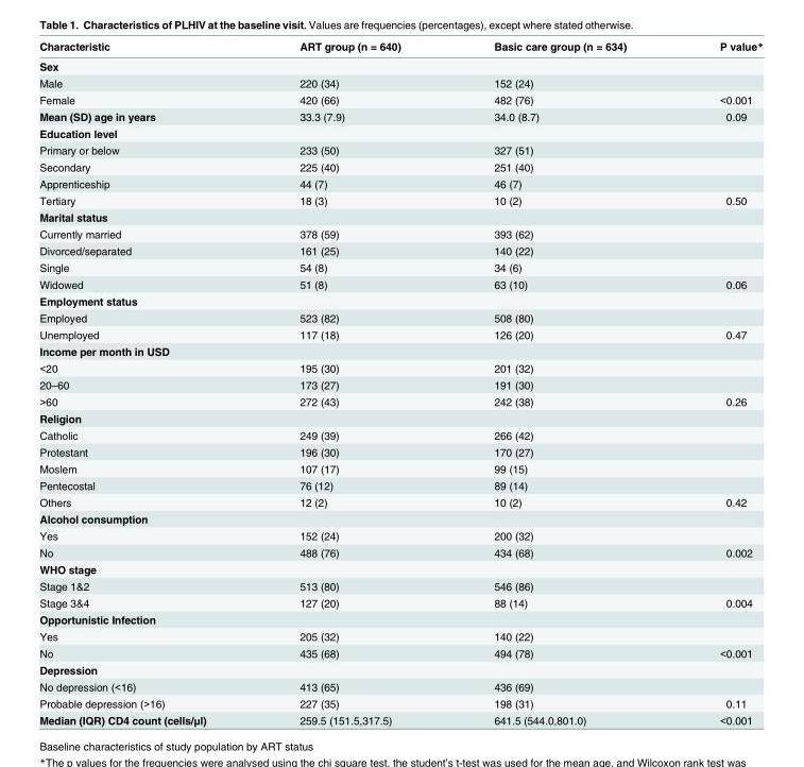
<table><thead><tr><td>Characteristic</td><td>ART group (n = 640)</td><td>Basic care group (n = 634)</td><td>P value*</td></tr></thead><tbody><tr><td colspan="4">Sex</td></tr><tr><td>Male</td><td>220 (34)</td><td>152 (24)</td><td></td></tr><tr><td>Female</td><td>420 (66)</td><td>482 (76)</td><td>&lt;0.001</td></tr><tr><td>Mean (SD) age in years</td><td>33.3 (7.9)</td><td>34.0 (8.7)</td><td>0.09</td></tr><tr><td colspan="4">Education level</td></tr><tr><td>Primary or below</td><td>233 (50)</td><td>327 (51)</td><td></td></tr><tr><td>Secondary</td><td>225 (40)</td><td>251 (40)</td><td></td></tr><tr><td>Apprenticeship</td><td>44 (7)</td><td>46 (7)</td><td></td></tr><tr><td>Tertiary</td><td>18 (3)</td><td>10 (2)</td><td>0.50</td></tr><tr><td colspan="4">Marital status</td></tr><tr><td>Currently married</td><td>378 (59)</td><td>393 (62)</td><td></td></tr><tr><td>Divorced/separated</td><td>161 (25)</td><td>140 (22)</td><td></td></tr><tr><td>Single</td><td>54 (8)</td><td>34 (6)</td><td></td></tr><tr><td>Widowed</td><td>51 (8)</td><td>63 (10)</td><td>0.06</td></tr><tr><td colspan="4">Employment status</td></tr><tr><td>Employed</td><td>523 (82)</td><td>508 (80)</td><td></td></tr><tr><td>Unemployed</td><td>117 (18)</td><td>126 (20)</td><td>0.47</td></tr><tr><td colspan="4">Income per month in USD</td></tr><tr><td>&lt;20</td><td>195 (30)</td><td>201 (32)</td><td></td></tr><tr><td>20–60</td><td>173 (27)</td><td>191 (30)</td><td></td></tr><tr><td>&gt;60</td><td>272 (43)</td><td>242 (38)</td><td>0.26</td></tr><tr><td colspan="4">Religion</td></tr><tr><td>Catholic</td><td>249 (39)</td><td>266 (42)</td><td></td></tr><tr><td>Protestant</td><td>196 (30)</td><td>170 (27)</td><td></td></tr><tr><td>Moslem</td><td>107 (17)</td><td>99 (15)</td><td></td></tr><tr><td>Pentecostal</td><td>76 (12)</td><td>89 (14)</td><td></td></tr><tr><td>Others</td><td>12 (2)</td><td>10 (2)</td><td>0.42</td></tr><tr><td colspan="4">Alcohol consumption</td></tr><tr><td>Yes</td><td>152 (24)</td><td>200 (32)</td><td></td></tr><tr><td>No</td><td>488 (76)</td><td>434 (68)</td><td>0.002</td></tr><tr><td colspan="4">WHO stage</td></tr><tr><td>Stage 1&amp;2</td><td>513 (80)</td><td>546 (86)</td><td></td></tr><tr><td>Stage 3&amp;4</td><td>127 (20)</td><td>88 (14)</td><td>0.004</td></tr><tr><td colspan="4">Opportunistic Infection</td></tr><tr><td>Yes</td><td>205 (32)</td><td>140 (22)</td><td></td></tr><tr><td>No</td><td>435 (68)</td><td>494 (78)</td><td>&lt;0.001</td></tr><tr><td colspan="4">Depression</td></tr><tr><td>No depression (&lt;16)</td><td>413 (65)</td><td>436 (69)</td><td></td></tr><tr><td>Probable depression (&gt;16)</td><td>227 (35)</td><td>198 (31)</td><td>0.11</td></tr><tr><td>Median (IQR) CD4 count (cells/μl)</td><td>259.5 (151.5,317.5)</td><td>641.5 (544.0,801.0)</td><td>&lt;0.001</td></tr></tbody></table>